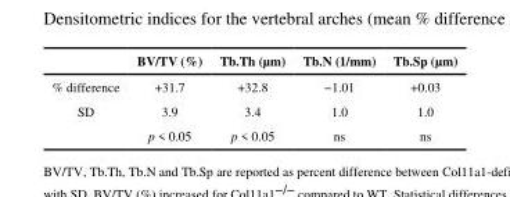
<table><thead><tr><td></td><td>BV/TV (%)</td><td>Tb.Th (μm)</td><td>Tb.N (1/mm)</td><td>Tb.Sp (μm)</td></tr></thead><tbody><tr><td>% difference</td><td>+31.7</td><td>+32.8</td><td>−1.01</td><td>+0.03</td></tr><tr><td rowspan="2">SD</td><td>3.9</td><td>3.4</td><td>1.0</td><td>1.0</td></tr><tr><td>p &lt; 0.05</td><td>p &lt; 0.05</td><td>ns</td><td>ns</td></tr></tbody></table>